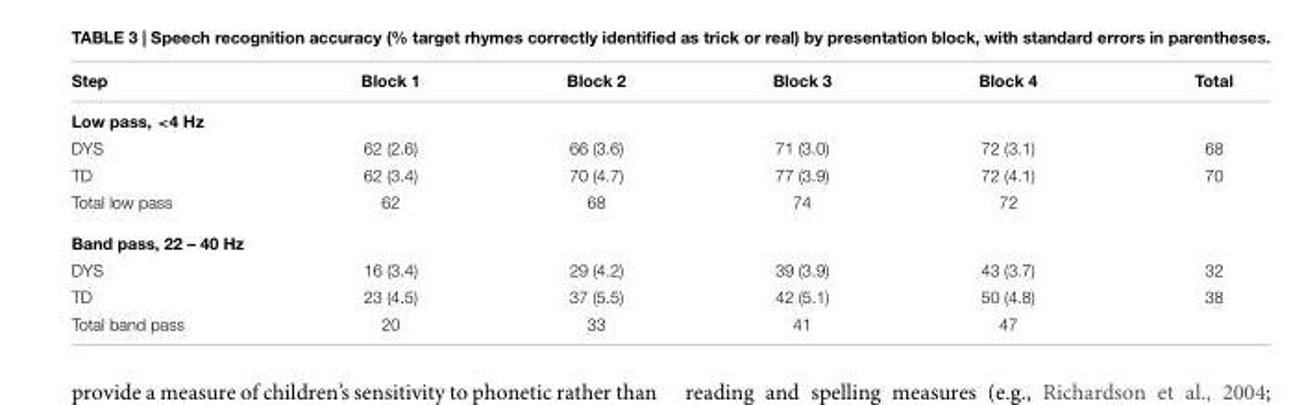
<table><thead><tr><td>Step</td><td>Block 1</td><td>Block 2</td><td>Block 3</td><td>Block 4</td><td>Total</td></tr></thead><tbody><tr><td colspan="6">Low pass, &lt;4 Hz</td></tr><tr><td>DYS</td><td>62 (2.6)</td><td>66 (3.6)</td><td>71 (3.0)</td><td>72 (3.1)</td><td>68</td></tr><tr><td>TD</td><td>62 (3.4)</td><td>70 (4.7)</td><td>77 (3.9)</td><td>72 (4.1)</td><td>70</td></tr><tr><td>Total low pass</td><td>62</td><td>68</td><td>74</td><td>72</td><td></td></tr><tr><td colspan="6">Band pass, 22 – 40 Hz</td></tr><tr><td>DYS</td><td>16 (3.4)</td><td>29 (4.2)</td><td>39 (3.9)</td><td>43 (3.7)</td><td>32</td></tr><tr><td>TD</td><td>23 (4.5)</td><td>37 (5.5)</td><td>42 (5.1)</td><td>50 (4.8)</td><td>38</td></tr><tr><td>Total band pass</td><td>20</td><td>33</td><td>41</td><td>47</td><td></td></tr></tbody></table>